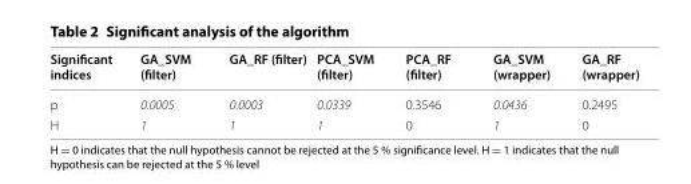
<table><thead><tr><td>Significant indices</td><td>GA_SVM (filter)</td><td>GA_RF (filter)</td><td>PCA_SVM (filter)</td><td>PCA_RF (filter)</td><td>GA_SVM (wrapper)</td><td>GA_RF (wrapper)</td></tr></thead><tbody><tr><td>p</td><td>0.0005</td><td>0.0003</td><td>0.0339</td><td>0.3546</td><td>0.0436</td><td>0.2495</td></tr><tr><td>H</td><td>1</td><td>1</td><td>1</td><td>0</td><td>1</td><td>0</td></tr></tbody></table>